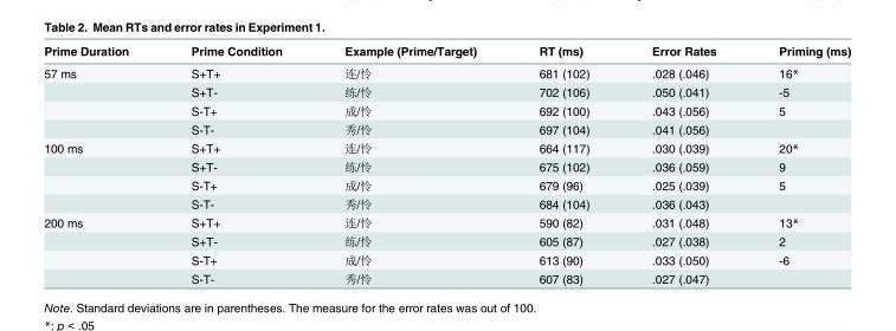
<table><thead><tr><td>Prime Duration</td><td>Prime Condition</td><td>Example (Prime/Target)</td><td>RT (ms)</td><td>Error Rates</td><td>Priming (ms)</td></tr></thead><tbody><tr><td rowspan="4">57 ms</td><td>S+T+</td><td>连/怜</td><td>681 (102)</td><td>.028 (.046)</td><td>16*</td></tr><tr><td>S+T-</td><td>练/怜</td><td>702 (106)</td><td>.050 (.041)</td><td>-5</td></tr><tr><td>S-T+</td><td>成/怜</td><td>692 (100)</td><td>.043 (.056)</td><td>5</td></tr><tr><td>S-T-</td><td>秀/怜</td><td>697 (104)</td><td>.041 (.056)</td><td></td></tr><tr><td rowspan="4">100 ms</td><td>S+T+</td><td>连/怜</td><td>664 (117)</td><td>.030 (.039)</td><td>20*</td></tr><tr><td>S+T-</td><td>练/怜</td><td>675 (102)</td><td>.036 (.059)</td><td>9</td></tr><tr><td>S-T+</td><td>成/怜</td><td>679 (96)</td><td>.025 (.039)</td><td>5</td></tr><tr><td>S-T-</td><td>秀/怜</td><td>684 (104)</td><td>.036 (.043)</td><td></td></tr><tr><td rowspan="4">200 ms</td><td>S+T+</td><td>连/怜</td><td>590 (82)</td><td>.031 (.048)</td><td>13*</td></tr><tr><td>S+T-</td><td>练/怜</td><td>605 (87)</td><td>.027 (.038)</td><td>2</td></tr><tr><td>S-T+</td><td>成/怜</td><td>613 (90)</td><td>.033 (.050)</td><td>-6</td></tr><tr><td>S-T-</td><td>秀/怜</td><td>607 (83)</td><td>.027 (.047)</td><td></td></tr></tbody></table>